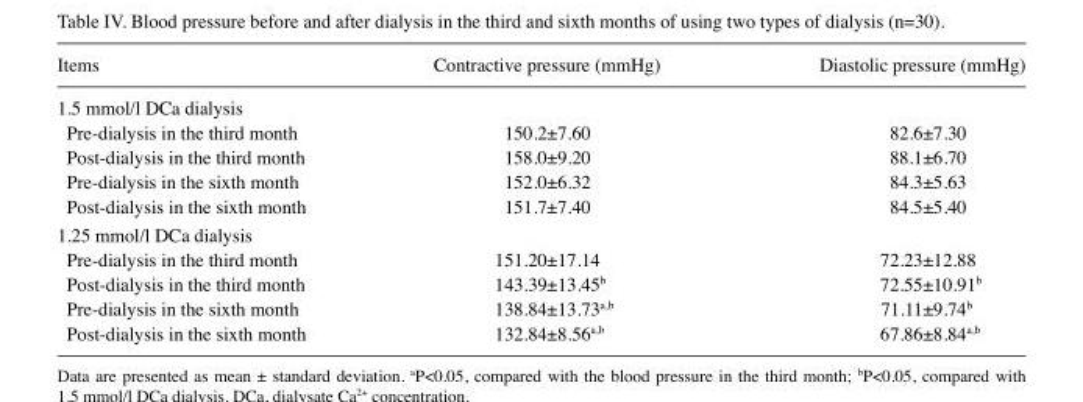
<table><thead><tr><td>Items</td><td>Contractive pressure (mmHg)</td><td>Diastolic pressure (mmHg)</td></tr></thead><tbody><tr><td colspan="3">1.5 mmol/l DCa dialysis</td></tr><tr><td>Pre-dialysis in the third month</td><td>150.2±7.60</td><td>82.6±7.30</td></tr><tr><td>Post-dialysis in the third month</td><td>158.0±9.20</td><td>88.1±6.70</td></tr><tr><td>Pre-dialysis in the sixth month</td><td>152.0±6.32</td><td>84.3±5.63</td></tr><tr><td>Post-dialysis in the sixth month</td><td>151.7±7.40</td><td>84.5±5.40</td></tr><tr><td colspan="3">1.25 mmol/l DCa dialysis</td></tr><tr><td>Pre-dialysis in the third month</td><td>151.20±17.14</td><td>72.23±12.88</td></tr><tr><td>Post-dialysis in the third month</td><td>143.39±13.45<sup>b</sup></td><td>72.55±10.91<sup>b</sup></td></tr><tr><td>Pre-dialysis in the sixth month</td><td>138.84±13.73<sup>a,b</sup></td><td>71.11±9.74<sup>b</sup></td></tr><tr><td>Post-dialysis in the sixth month</td><td>132.84±8.56<sup>a,b</sup></td><td>67.86±8.84<sup>a,b</sup></td></tr></tbody></table>